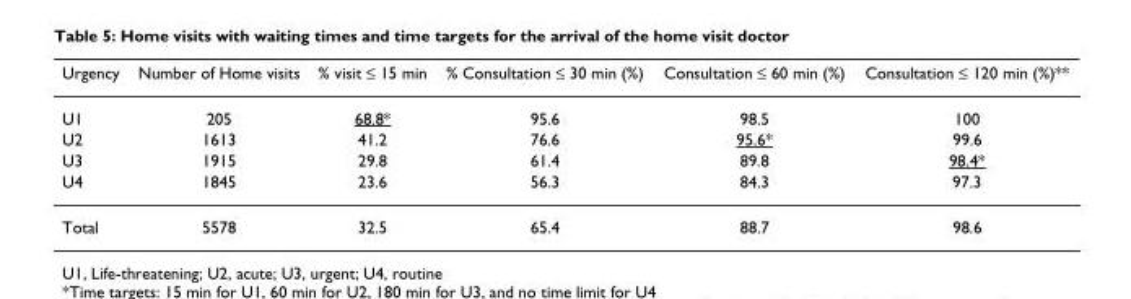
<table><thead><tr><td>Urgency</td><td>Number of Home visits</td><td>% visit ≤ 15 min</td><td>% Consultation ≤ 30 min (%)</td><td>Consultation ≤ 60 min (%)</td><td>Consultation ≤ 120 min (%)**</td></tr></thead><tbody><tr><td>U1</td><td>205</td><td>68.8*</td><td>95.6</td><td>98.5</td><td>100</td></tr><tr><td>U2</td><td>1613</td><td>41.2</td><td>76.6</td><td>95.6*</td><td>99.6</td></tr><tr><td>U3</td><td>1915</td><td>29.8</td><td>61.4</td><td>89.8</td><td>98.4*</td></tr><tr><td>U4</td><td>1845</td><td>23.6</td><td>56.3</td><td>84.3</td><td>97.3</td></tr><tr><td>Total</td><td>5578</td><td>32.5</td><td>65.4</td><td>88.7</td><td>98.6</td></tr></tbody></table>